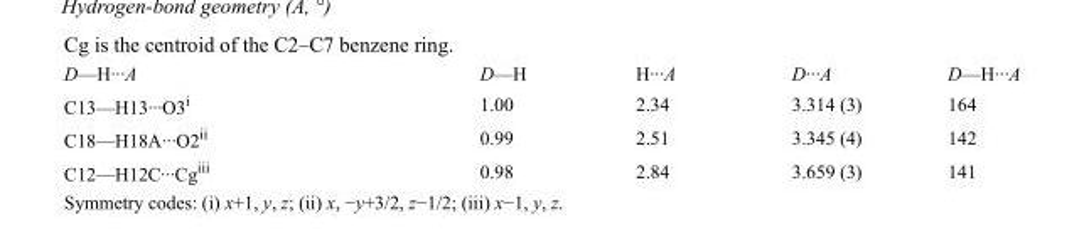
<table><tbody><tr><td>D—H···A</td><td>D—H</td><td>H···A</td><td>D···A</td><td>D—H···A</td></tr><tr><td>C13—H13···O3<sup>i</sup></td><td>1.00</td><td>2.34</td><td>3.314 (3)</td><td>164</td></tr><tr><td>C18—H18A···O2<sup>ii</sup></td><td>0.99</td><td>2.51</td><td>3.345 (4)</td><td>142</td></tr><tr><td>C12—H12C···Cg<sup>iii</sup></td><td>0.98</td><td>2.84</td><td>3.659 (3)</td><td>141</td></tr></tbody></table>